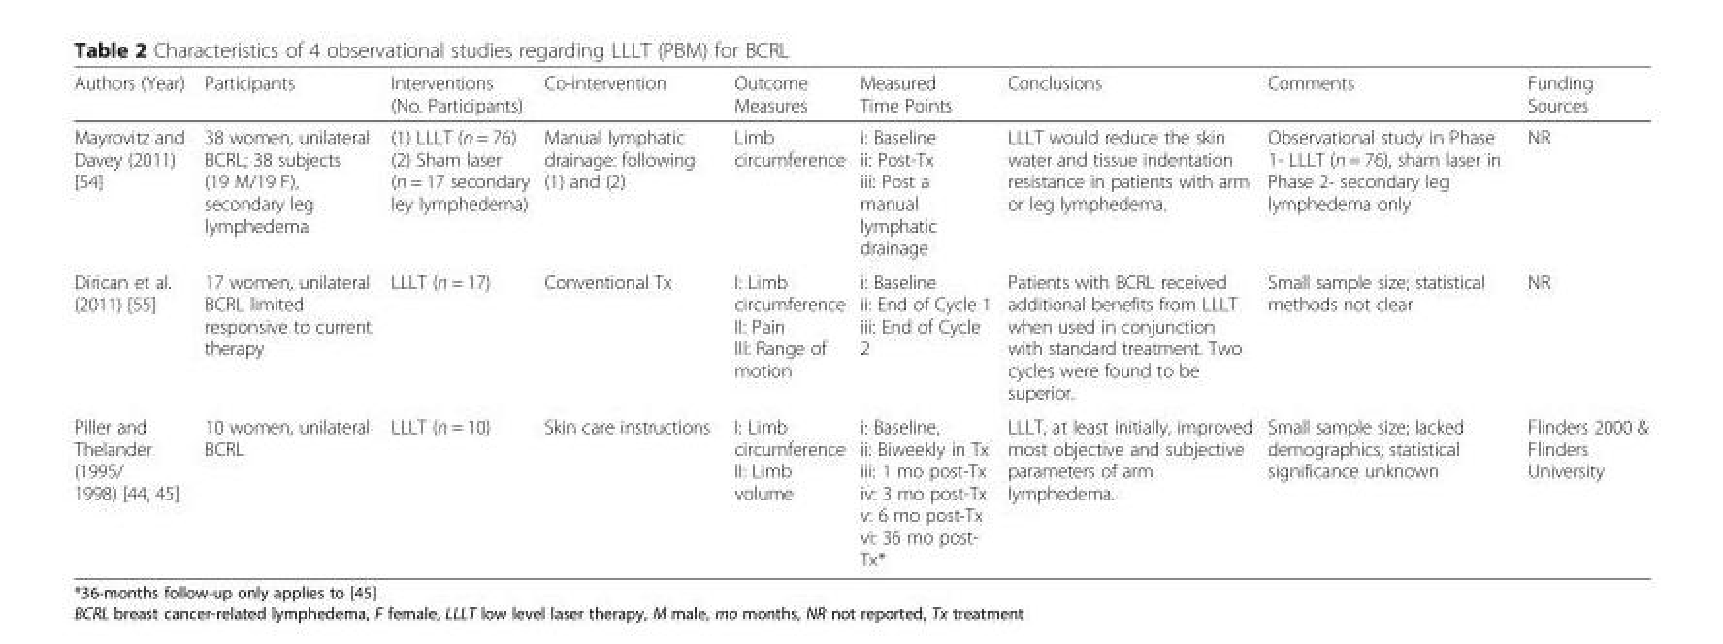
<table><thead><tr><td>Authors (Year)</td><td>Participants</td><td>Interventions (No. Participants)</td><td>Co-intervention</td><td>Outcome Measures</td><td>Measured Time Points</td><td>Conclusions</td><td>Comments</td><td>Funding Sources</td></tr></thead><tbody><tr><td>Mayrovitz and Davey (2011) [54]</td><td>38 women, unilateral BCRL; 38 subjects (19 M/19 F), secondary leg lymphedema</td><td>(1) LLLT (n = 76) (2) Sham laser (n = 17 secondary ley lymphedema)</td><td>Manual lymphatic drainage: following (1) and (2)</td><td>Limb circumference</td><td>i: Baseline ii: Post-Tx iii: Post a manual lymphatic drainage</td><td>LLLT would reduce the skin water and tissue indentation resistance in patients with arm or leg lymphedema.</td><td>Observational study in Phase 1- LLLT (n = 76), sham laser in Phase 2- secondary leg lymphedema only</td><td>NR</td></tr><tr><td>Dirican et al. (2011) [55]</td><td>17 women, unilateral BCRL limited responsive to current therapy</td><td>LLLT (n = 17)</td><td>Conventional Tx</td><td>I: Limb circumference II: Pain III: Range of motion</td><td>i: Baseline ii: End of Cycle 1 iii: End of Cycle 2</td><td>Patients with BCRL received additional benefits from LLLT when used in conjunction with standard treatment. Two cycles were found to be superior.</td><td>Small sample size; statistical methods not clear</td><td>NR</td></tr><tr><td>Piller and Thelander (1995/ 1998) [44, 45]</td><td>10 women, unilateral BCRL</td><td>LLLT (n = 10)</td><td>Skin care instructions</td><td>I: Limb circumference II: Limb volume</td><td>i: Baseline, ii: Biweekly in Tx iii: 1 mo post-Tx iv: 3 mo post-Tx v: 6 mo post-Tx vi: 36 mo post- Tx*</td><td>LLLT, at least initially, improved most objective and subjective parameters of arm lymphedema.</td><td>Small sample size; lacked demographics; statistical significance unknown</td><td>Flinders 2000 &amp; Flinders University</td></tr></tbody></table>